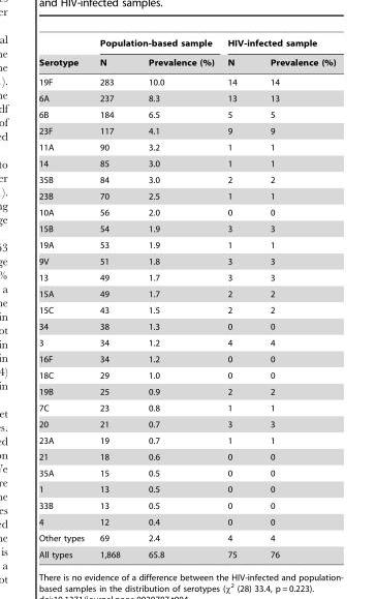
<table><thead><tr><td rowspan="2">Serotype</td><td colspan="2">Population-based sample</td><td colspan="2">HIV-infected sample</td></tr><tr><td>N</td><td>Prevalence (%)</td><td>N</td><td>Prevalence (%)</td></tr></thead><tbody><tr><td>19F</td><td>283</td><td>10.0</td><td>14</td><td>14</td></tr><tr><td>6A</td><td>237</td><td>8.3</td><td>13</td><td>13</td></tr><tr><td>6B</td><td>184</td><td>6.5</td><td>5</td><td>5</td></tr><tr><td>23F</td><td>117</td><td>4.1</td><td>9</td><td>9</td></tr><tr><td>11A</td><td>90</td><td>3.2</td><td>1</td><td>1</td></tr><tr><td>14</td><td>85</td><td>3.0</td><td>1</td><td>1</td></tr><tr><td>35B</td><td>84</td><td>3.0</td><td>2</td><td>2</td></tr><tr><td>23B</td><td>70</td><td>2.5</td><td>1</td><td>1</td></tr><tr><td>10A</td><td>56</td><td>2.0</td><td>0</td><td>0</td></tr><tr><td>15B</td><td>54</td><td>1.9</td><td>3</td><td>3</td></tr><tr><td>19A</td><td>53</td><td>1.9</td><td>1</td><td>1</td></tr><tr><td>9V</td><td>51</td><td>1.8</td><td>3</td><td>3</td></tr><tr><td>13</td><td>49</td><td>1.7</td><td>3</td><td>3</td></tr><tr><td>15A</td><td>49</td><td>1.7</td><td>2</td><td>2</td></tr><tr><td>15C</td><td>43</td><td>1.5</td><td>2</td><td>2</td></tr><tr><td>34</td><td>38</td><td>1.3</td><td>0</td><td>0</td></tr><tr><td>3</td><td>34</td><td>1.2</td><td>4</td><td>4</td></tr><tr><td>16F</td><td>34</td><td>1.2</td><td>0</td><td>0</td></tr><tr><td>18C</td><td>29</td><td>1.0</td><td>0</td><td>0</td></tr><tr><td>19B</td><td>25</td><td>0.9</td><td>2</td><td>2</td></tr><tr><td>7C</td><td>23</td><td>0.8</td><td>1</td><td>1</td></tr><tr><td>20</td><td>21</td><td>0.7</td><td>3</td><td>3</td></tr><tr><td>23A</td><td>19</td><td>0.7</td><td>1</td><td>1</td></tr><tr><td>21</td><td>18</td><td>0.6</td><td>0</td><td>0</td></tr><tr><td>35A</td><td>15</td><td>0.5</td><td>0</td><td>0</td></tr><tr><td>1</td><td>13</td><td>0.5</td><td>0</td><td>0</td></tr><tr><td>33B</td><td>13</td><td>0.5</td><td>0</td><td>0</td></tr><tr><td>4</td><td>12</td><td>0.4</td><td>0</td><td>0</td></tr><tr><td>Other types</td><td>69</td><td>2.4</td><td>4</td><td>4</td></tr><tr><td>All types</td><td>1,868</td><td>65.8</td><td>75</td><td>76</td></tr></tbody></table>